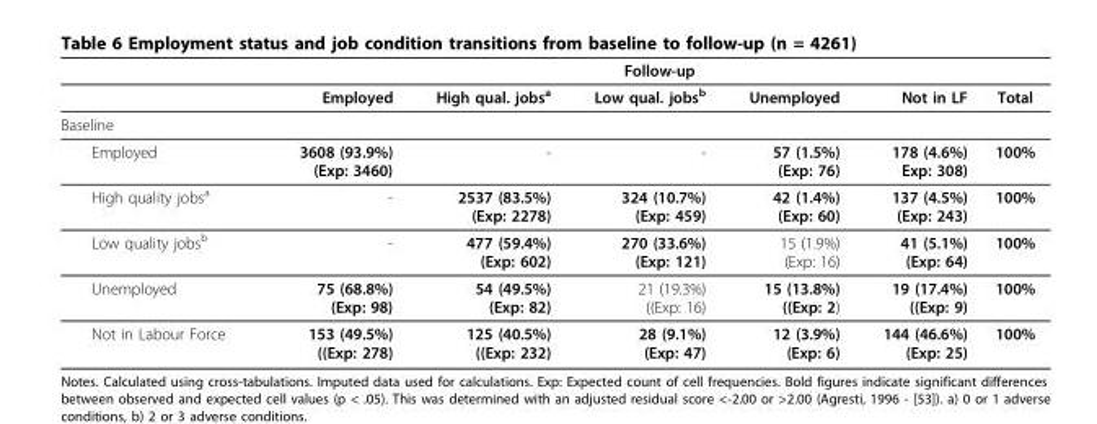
<table><thead><tr><td rowspan="2"></td><td colspan="6">Follow-up</td></tr><tr><td>Employed</td><td>High qual. jobs<sup>a</sup></td><td>Low qual. jobs<sup>b</sup></td><td>Unemployed</td><td>Not in LF</td><td>Total</td></tr></thead><tbody><tr><td colspan="7">Baseline</td></tr><tr><td>Employed</td><td>3608 (93.9%) (Exp: 3460)</td><td>-</td><td>-</td><td>57 (1.5%) (Exp: 76)</td><td>178 (4.6%) Exp: 308)</td><td>100%</td></tr><tr><td>High quality jobs<sup>a</sup></td><td>-</td><td>2537 (83.5%) (Exp: 2278)</td><td>324 (10.7%) (Exp: 459)</td><td>42 (1.4%) (Exp: 60)</td><td>137 (4.5%) (Exp: 243)</td><td>100%</td></tr><tr><td>Low quality jobs<sup>b</sup></td><td>-</td><td>477 (59.4%) (Exp: 602)</td><td>270 (33.6%) (Exp: 121)</td><td>15 (1.9%) (Exp: 16)</td><td>41 (5.1%) (Exp: 64)</td><td>100%</td></tr><tr><td>Unemployed</td><td>75 (68.8%) (Exp: 98)</td><td>54 (49.5%) (Exp: 82)</td><td>21 (19.3%) ((Exp: 16)</td><td>15 (13.8%) ((Exp: 2)</td><td>19 (17.4%) ((Exp: 9)</td><td>100%</td></tr><tr><td>Not in Labour Force</td><td>153 (49.5%) ((Exp: 278)</td><td>125 (40.5%) ((Exp: 232)</td><td>28 (9.1%) (Exp: 47)</td><td>12 (3.9%) (Exp: 6)</td><td>144 (46.6%) (Exp: 25)</td><td>100%</td></tr></tbody></table>